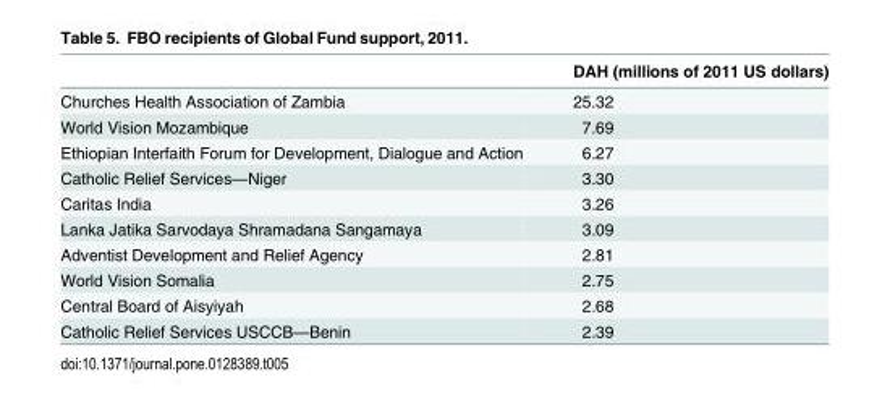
<table><thead><tr><td></td><td>DAH (millions of 2011 US dollars)</td></tr></thead><tbody><tr><td>Churches Health Association of Zambia</td><td>25.32</td></tr><tr><td>World Vision Mozambique</td><td>7.69</td></tr><tr><td>Ethiopian Interfaith Forum for Development, Dialogue and Action</td><td>6.27</td></tr><tr><td>Catholic Relief Services—Niger</td><td>3.30</td></tr><tr><td>Caritas India</td><td>3.26</td></tr><tr><td>Lanka Jatika Sarvodaya Shramadana Sangamaya</td><td>3.09</td></tr><tr><td>Adventist Development and Relief Agency</td><td>2.81</td></tr><tr><td>World Vision Somalia</td><td>2.75</td></tr><tr><td>Central Board of Aisyiyah</td><td>2.68</td></tr><tr><td>Catholic Relief Services USCCB—Benin</td><td>2.39</td></tr></tbody></table>